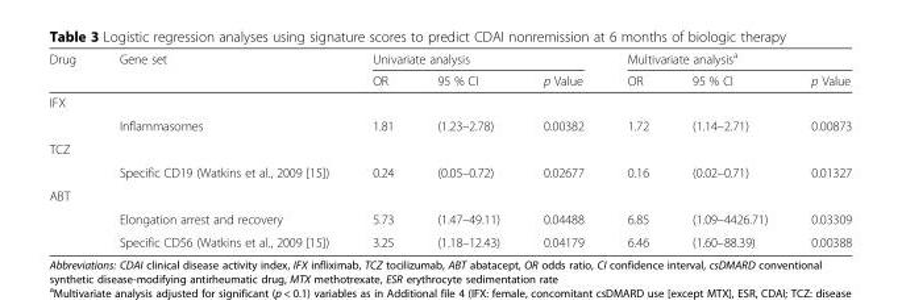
<table><thead><tr><td rowspan="2">Drug</td><td rowspan="2">Gene set</td><td colspan="3">Univariate analysis</td><td colspan="3">Multivariate analysis<sup>a</sup></td></tr><tr><td>OR</td><td>95 % CI</td><td>p Value</td><td>OR</td><td>95 % CI</td><td>p Value</td></tr></thead><tbody><tr><td colspan="8">IFX</td></tr><tr><td></td><td>Inflammasomes</td><td>1.81</td><td>(1.23–2.78)</td><td>0.00382</td><td>1.72</td><td>(1.14–2.71)</td><td>0.00873</td></tr><tr><td colspan="8">TCZ</td></tr><tr><td></td><td>Specific CD19 (Watkins et al., 2009 [15])</td><td>0.24</td><td>(0.05–0.72)</td><td>0.02677</td><td>0.16</td><td>(0.02–0.71)</td><td>0.01327</td></tr><tr><td colspan="8">ABT</td></tr><tr><td></td><td>Elongation arrest and recovery</td><td>5.73</td><td>(1.47–49.11)</td><td>0.04488</td><td>6.85</td><td>(1.09–4426.71)</td><td>0.03309</td></tr><tr><td></td><td>Specific CD56 (Watkins et al., 2009 [15])</td><td>3.25</td><td>(1.18–12.43)</td><td>0.04179</td><td>6.46</td><td>(1.60–88.39)</td><td>0.00388</td></tr></tbody></table>